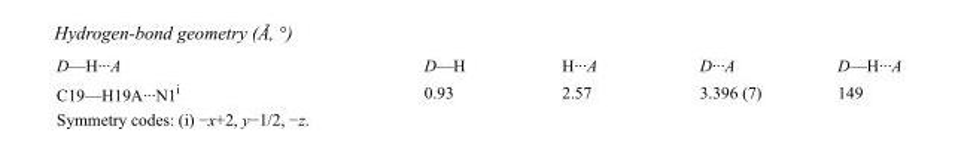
<table><tbody><tr><td>D—H···A</td><td>D—H</td><td>H···A</td><td>D···A</td><td>D—H···A</td></tr><tr><td>C19—H19A···N1<sup>i</sup></td><td>0.93</td><td>2.57</td><td>3.396 (7)</td><td>149</td></tr></tbody></table>